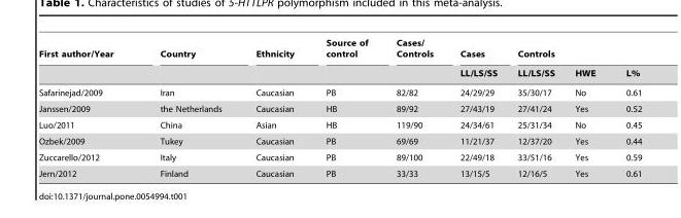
<table><thead><tr><td rowspan="2">First author/Year</td><td rowspan="2">Country</td><td rowspan="2">Ethnicity</td><td rowspan="2">Source of control</td><td rowspan="2">Cases/ Controls</td><td rowspan="2">Cases LL/LS/SS</td><td colspan="3">Controls</td></tr><tr><td>LL/LS/SS</td><td>HWE</td><td>L%</td></tr></thead><tbody><tr><td>Safarinejad/2009</td><td>Iran</td><td>Caucasian</td><td>PB</td><td>82/82</td><td>24/29/29</td><td>35/30/17</td><td>No</td><td>0.61</td></tr><tr><td>Janssen/2009</td><td>the Netherlands</td><td>Caucasian</td><td>HB</td><td>89/92</td><td>27/43/19</td><td>27/41/24</td><td>Yes</td><td>0.52</td></tr><tr><td>Luo/2011</td><td>China</td><td>Asian</td><td>HB</td><td>119/90</td><td>24/34/61</td><td>25/31/34</td><td>No</td><td>0.45</td></tr><tr><td>Ozbek/2009</td><td>Tukey</td><td>Caucasian</td><td>PB</td><td>69/69</td><td>11/21/37</td><td>12/37/20</td><td>Yes</td><td>0.44</td></tr><tr><td>Zuccarello/2012</td><td>Italy</td><td>Caucasian</td><td>PB</td><td>89/100</td><td>22/49/18</td><td>33/51/16</td><td>Yes</td><td>0.59</td></tr><tr><td>Jern/2012</td><td>Finland</td><td>Caucasian</td><td>PB</td><td>33/33</td><td>13/15/5</td><td>12/16/5</td><td>Yes</td><td>0.61</td></tr></tbody></table>